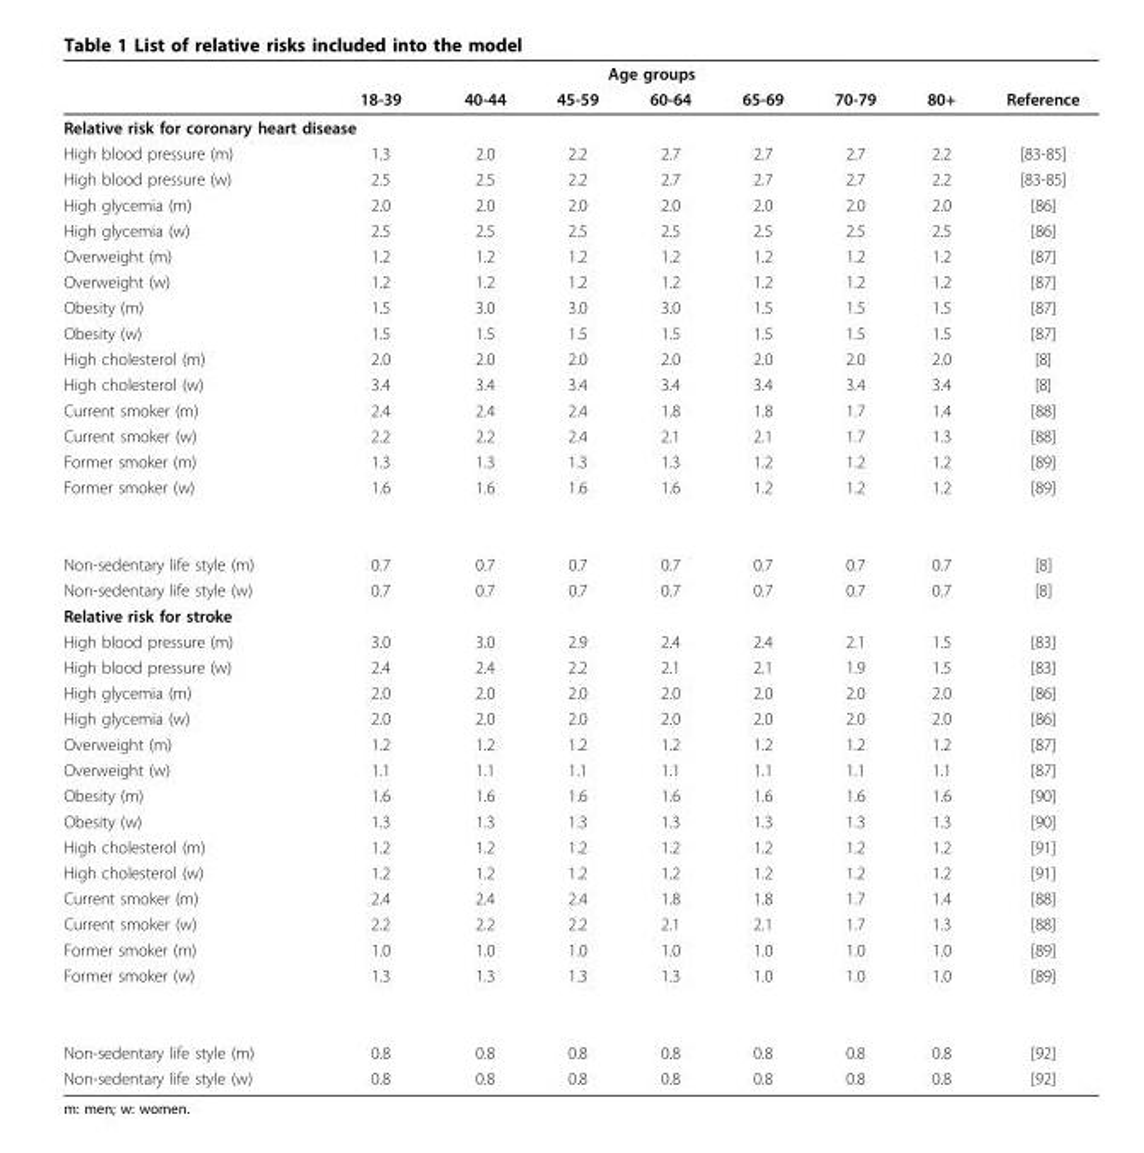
<table><thead><tr><td rowspan="2"></td><td colspan="7">Age groups</td><td rowspan="2">Reference</td></tr><tr><td>18-39</td><td>40-44</td><td>45-59</td><td>60-64</td><td>65-69</td><td>70-79</td><td>80+</td></tr></thead><tbody><tr><td colspan="9">Relative risk for coronary heart disease</td></tr><tr><td>High blood pressure (m)</td><td>1.3</td><td>2.0</td><td>2.2</td><td>2.7</td><td>2.7</td><td>2.7</td><td>2.2</td><td>[83-85]</td></tr><tr><td>High blood pressure (w)</td><td>2.5</td><td>2.5</td><td>2.2</td><td>2.7</td><td>2.7</td><td>2.7</td><td>2.2</td><td>[83-85]</td></tr><tr><td>High glycemia (m)</td><td>2.0</td><td>2.0</td><td>2.0</td><td>2.0</td><td>2.0</td><td>2.0</td><td>2.0</td><td>[86]</td></tr><tr><td>High glycemia (w)</td><td>2.5</td><td>2.5</td><td>2.5</td><td>2.5</td><td>2.5</td><td>2.5</td><td>2.5</td><td>[86]</td></tr><tr><td>Overweight (m)</td><td>1.2</td><td>1.2</td><td>1.2</td><td>1.2</td><td>1.2</td><td>1.2</td><td>1.2</td><td>[87]</td></tr><tr><td>Overweight (w)</td><td>1.2</td><td>1.2</td><td>1.2</td><td>1.2</td><td>1.2</td><td>1.2</td><td>1.2</td><td>[87]</td></tr><tr><td>Obesity (m)</td><td>1.5</td><td>3.0</td><td>3.0</td><td>3.0</td><td>1.5</td><td>1.5</td><td>1.5</td><td>[87]</td></tr><tr><td>Obesity (w)</td><td>1.5</td><td>1.5</td><td>1.5</td><td>1.5</td><td>1.5</td><td>1.5</td><td>1.5</td><td>[87]</td></tr><tr><td>High cholesterol (m)</td><td>2.0</td><td>2.0</td><td>2.0</td><td>2.0</td><td>2.0</td><td>2.0</td><td>2.0</td><td>[8]</td></tr><tr><td>High cholesterol (w)</td><td>3.4</td><td>3.4</td><td>3.4</td><td>3.4</td><td>3.4</td><td>3.4</td><td>3.4</td><td>[8]</td></tr><tr><td>Current smoker (m)</td><td>2.4</td><td>2.4</td><td>2.4</td><td>1.8</td><td>1.8</td><td>1.7</td><td>1.4</td><td>[88]</td></tr><tr><td>Current smoker (w)</td><td>2.2</td><td>2.2</td><td>2.4</td><td>2.1</td><td>2.1</td><td>1.7</td><td>1.3</td><td>[88]</td></tr><tr><td>Former smoker (m)</td><td>1.3</td><td>1.3</td><td>1.3</td><td>1.3</td><td>1.2</td><td>1.2</td><td>1.2</td><td>[89]</td></tr><tr><td>Former smoker (w)</td><td>1.6</td><td>1.6</td><td>1.6</td><td>1.6</td><td>1.2</td><td>1.2</td><td>1.2</td><td>[89]</td></tr><tr><td>Non-sedentary life style (m)</td><td>0.7</td><td>0.7</td><td>0.7</td><td>0.7</td><td>0.7</td><td>0.7</td><td>0.7</td><td>[8]</td></tr><tr><td>Non-sedentary life style (w)</td><td>0.7</td><td>0.7</td><td>0.7</td><td>0.7</td><td>0.7</td><td>0.7</td><td>0.7</td><td>[8]</td></tr><tr><td colspan="9">Relative risk for stroke</td></tr><tr><td>High blood pressure (m)</td><td>3.0</td><td>3.0</td><td>2.9</td><td>2.4</td><td>2.4</td><td>2.1</td><td>1.5</td><td>[83]</td></tr><tr><td>High blood pressure (w)</td><td>2.4</td><td>2.4</td><td>2.2</td><td>2.1</td><td>2.1</td><td>1.9</td><td>1.5</td><td>[83]</td></tr><tr><td>High glycemia (m)</td><td>2.0</td><td>2.0</td><td>2.0</td><td>2.0</td><td>2.0</td><td>2.0</td><td>2.0</td><td>[86]</td></tr><tr><td>High glycemia (w)</td><td>2.0</td><td>2.0</td><td>2.0</td><td>2.0</td><td>2.0</td><td>2.0</td><td>2.0</td><td>[86]</td></tr><tr><td>Overweight (m)</td><td>1.2</td><td>1.2</td><td>1.2</td><td>1.2</td><td>1.2</td><td>1.2</td><td>1.2</td><td>[87]</td></tr><tr><td>Overweight (w)</td><td>1.1</td><td>1.1</td><td>1.1</td><td>1.1</td><td>1.1</td><td>1.1</td><td>1.1</td><td>[87]</td></tr><tr><td>Obesity (m)</td><td>1.6</td><td>1.6</td><td>1.6</td><td>1.6</td><td>1.6</td><td>1.6</td><td>1.6</td><td>[90]</td></tr><tr><td>Obesity (w)</td><td>1.3</td><td>1.3</td><td>1.3</td><td>1.3</td><td>1.3</td><td>1.3</td><td>1.3</td><td>[90]</td></tr><tr><td>High cholesterol (m)</td><td>1.2</td><td>1.2</td><td>1.2</td><td>1.2</td><td>1.2</td><td>1.2</td><td>1.2</td><td>[91]</td></tr><tr><td>High cholesterol (w)</td><td>1.2</td><td>1.2</td><td>1.2</td><td>1.2</td><td>1.2</td><td>1.2</td><td>1.2</td><td>[91]</td></tr><tr><td>Current smoker (m)</td><td>2.4</td><td>2.4</td><td>2.4</td><td>1.8</td><td>1.8</td><td>1.7</td><td>1.4</td><td>[88]</td></tr><tr><td>Current smoker (w)</td><td>2.2</td><td>2.2</td><td>2.2</td><td>2.1</td><td>2.1</td><td>1.7</td><td>1.3</td><td>[88]</td></tr><tr><td>Former smoker (m)</td><td>1.0</td><td>1.0</td><td>1.0</td><td>1.0</td><td>1.0</td><td>1.0</td><td>1.0</td><td>[89]</td></tr><tr><td>Former smoker (w)</td><td>1.3</td><td>1.3</td><td>1.3</td><td>1.3</td><td>1.0</td><td>1.0</td><td>1.0</td><td>[89]</td></tr><tr><td>Non-sedentary life style (m)</td><td>0.8</td><td>0.8</td><td>0.8</td><td>0.8</td><td>0.8</td><td>0.8</td><td>0.8</td><td>[92]</td></tr><tr><td>Non-sedentary life style (w)</td><td>0.8</td><td>0.8</td><td>0.8</td><td>0.8</td><td>0.8</td><td>0.8</td><td>0.8</td><td>[92]</td></tr></tbody></table>